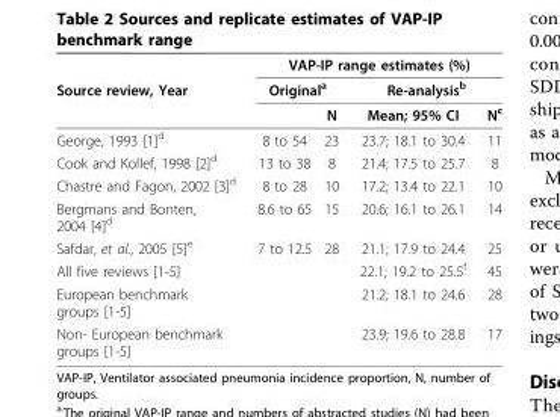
<table><thead><tr><td rowspan="3">Source review, Year</td><td colspan="4">VAP-IP range estimates (%)</td></tr><tr><td colspan="2">Original<sup>a</sup></td><td colspan="2">Re-analysis<sup>b</sup></td></tr><tr><td></td><td>N</td><td>Mean; 95% CI</td><td>N<sup>c</sup></td></tr></thead><tbody><tr><td>George, 1993 [1]<sup>d</sup></td><td>8 to 54</td><td>23</td><td>23.7; 18.1 to 30.4</td><td>11</td></tr><tr><td>Cook and Kollef, 1998 [2]<sup>d</sup></td><td>13 to 38</td><td>8</td><td>21.4; 17.5 to 25.7</td><td>8</td></tr><tr><td>Chastre and Fagon, 2002 [3]<sup>d</sup></td><td>8 to 28</td><td>10</td><td>17.2; 13.4 to 22.1</td><td>10</td></tr><tr><td>Bergmans and Bonten, 2004 [4]<sup>d</sup></td><td>8.6 to 65</td><td>15</td><td>20.6; 16.1 to 26.1</td><td>14</td></tr><tr><td>Safdar, et al., 2005 [5]<sup>e</sup></td><td>7 to 12.5</td><td>28</td><td>21.1; 17.9 to 24.4</td><td>25</td></tr><tr><td>All five reviews [1-5]</td><td></td><td></td><td>22.1; 19.2 to 25.5<sup>f</sup></td><td>45</td></tr><tr><td>European benchmark groups [1-5]</td><td></td><td></td><td>21.2; 18.1 to 24.6</td><td>28</td></tr><tr><td>Non- European benchmark groups [1-5]</td><td></td><td></td><td>23.9; 19.6 to 28.8</td><td>17</td></tr></tbody></table>